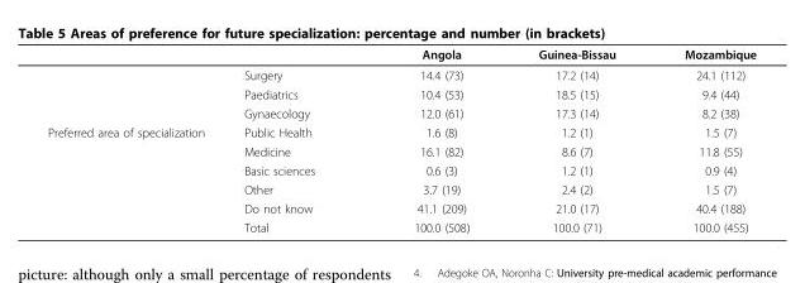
<table><thead><tr><td></td><td></td><td>Angola</td><td>Guinea-Bissau</td><td>Mozambique</td></tr></thead><tbody><tr><td></td><td>Surgery</td><td>14.4 (73)</td><td>17.2 (14)</td><td>24.1 (112)</td></tr><tr><td></td><td>Paediatrics</td><td>10.4 (53)</td><td>18.5 (15)</td><td>9.4 (44)</td></tr><tr><td></td><td>Gynaecology</td><td>12.0 (61)</td><td>17.3 (14)</td><td>8.2 (38)</td></tr><tr><td rowspan="6">Preferred area of specialization</td><td>Public Health</td><td>1.6 (8)</td><td>1.2 (1)</td><td>1.5 (7)</td></tr><tr><td>Medicine</td><td>16.1 (82)</td><td>8.6 (7)</td><td>11.8 (55)</td></tr><tr><td>Basic sciences</td><td>0.6 (3)</td><td>1.2 (1)</td><td>0.9 (4)</td></tr><tr><td>Other</td><td>3.7 (19)</td><td>2.4 (2)</td><td>1.5 (7)</td></tr><tr><td>Do not know</td><td>41.1 (209)</td><td>21.0 (17)</td><td>40.4 (188)</td></tr><tr><td>Total</td><td>100.0 (508)</td><td>100.0 (71)</td><td>100.0 (455)</td></tr></tbody></table>